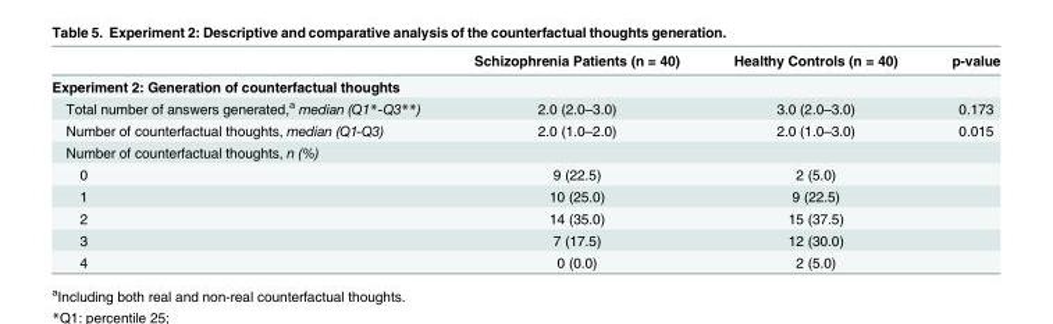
<table><thead><tr><td></td><td>Schizophrenia Patients (n = 40)</td><td>Healthy Controls (n = 40)</td><td>p-value</td></tr></thead><tbody><tr><td colspan="4">Experiment 2: Generation of counterfactual thoughts</td></tr><tr><td>Total number of answers generated,<sup>a</sup> median (Q1*-Q3**)</td><td>2.0 (2.0–3.0)</td><td>3.0 (2.0–3.0)</td><td>0.173</td></tr><tr><td>Number of counterfactual thoughts, median (Q1-Q3)</td><td>2.0 (1.0–2.0)</td><td>2.0 (1.0–3.0)</td><td>0.015</td></tr><tr><td colspan="4">Number of counterfactual thoughts, n (%)</td></tr><tr><td>0</td><td>9 (22.5)</td><td>2 (5.0)</td><td></td></tr><tr><td>1</td><td>10 (25.0)</td><td>9 (22.5)</td><td></td></tr><tr><td>2</td><td>14 (35.0)</td><td>15 (37.5)</td><td></td></tr><tr><td>3</td><td>7 (17.5)</td><td>12 (30.0)</td><td></td></tr><tr><td>4</td><td>0 (0.0)</td><td>2 (5.0)</td><td></td></tr></tbody></table>